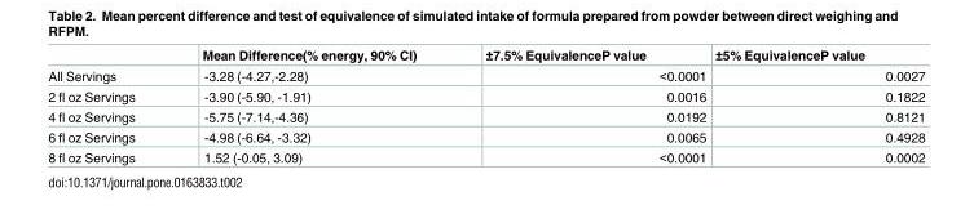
<table><thead><tr><td></td><td>Mean Difference(% energy, 90% CI)</td><td>±7.5% EquivalenceP value</td><td>±5% EquivalenceP value</td></tr></thead><tbody><tr><td>All Servings</td><td>-3.28 (-4.27,-2.28)</td><td>&lt;0.0001</td><td>0.0027</td></tr><tr><td>2 fl oz Servings</td><td>-3.90 (-5.90, -1.91)</td><td>0.0016</td><td>0.1822</td></tr><tr><td>4 fl oz Servings</td><td>-5.75 (-7.14,-4.36)</td><td>0.0192</td><td>0.8121</td></tr><tr><td>6 fl oz Servings</td><td>-4.98 (-6.64, -3.32)</td><td>0.0065</td><td>0.4928</td></tr><tr><td>8 fl oz Servings</td><td>1.52 (-0.05, 3.09)</td><td>&lt;0.0001</td><td>0.0002</td></tr></tbody></table>